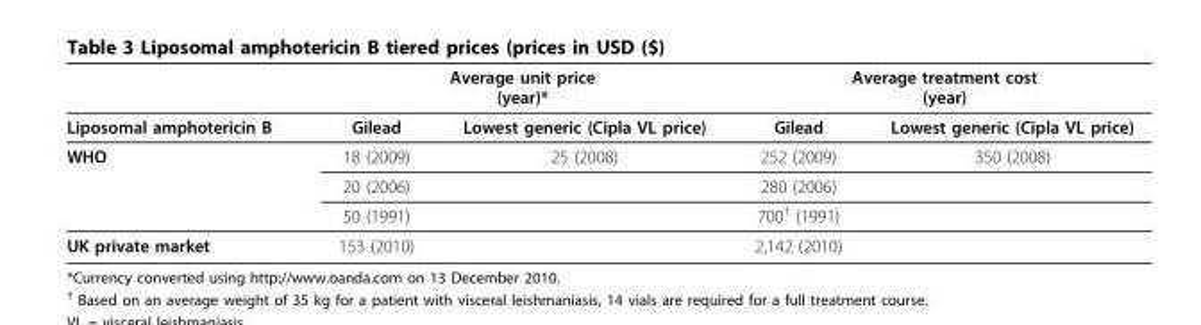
<table><thead><tr><td rowspan="2">Liposomal amphotericin B</td><td colspan="2">Average unit price (year)*</td><td colspan="2">Average treatment cost (year)</td></tr><tr><td>Gilead</td><td>Lowest generic (Cipla VL price)</td><td>Gilead</td><td>Lowest generic (Cipla VL price)</td></tr></thead><tbody><tr><td rowspan="3">WHO</td><td>18 (2009)</td><td>25 (2008)</td><td>252 (2009)</td><td>350 (2008)</td></tr><tr><td>20 (2006)</td><td></td><td>280 (2006)</td><td></td></tr><tr><td>50 (1991)</td><td></td><td>700<sup>†</sup> (1991)</td><td></td></tr><tr><td>UK private market</td><td>153 (2010)</td><td></td><td>2,142 (2010)</td><td></td></tr></tbody></table>